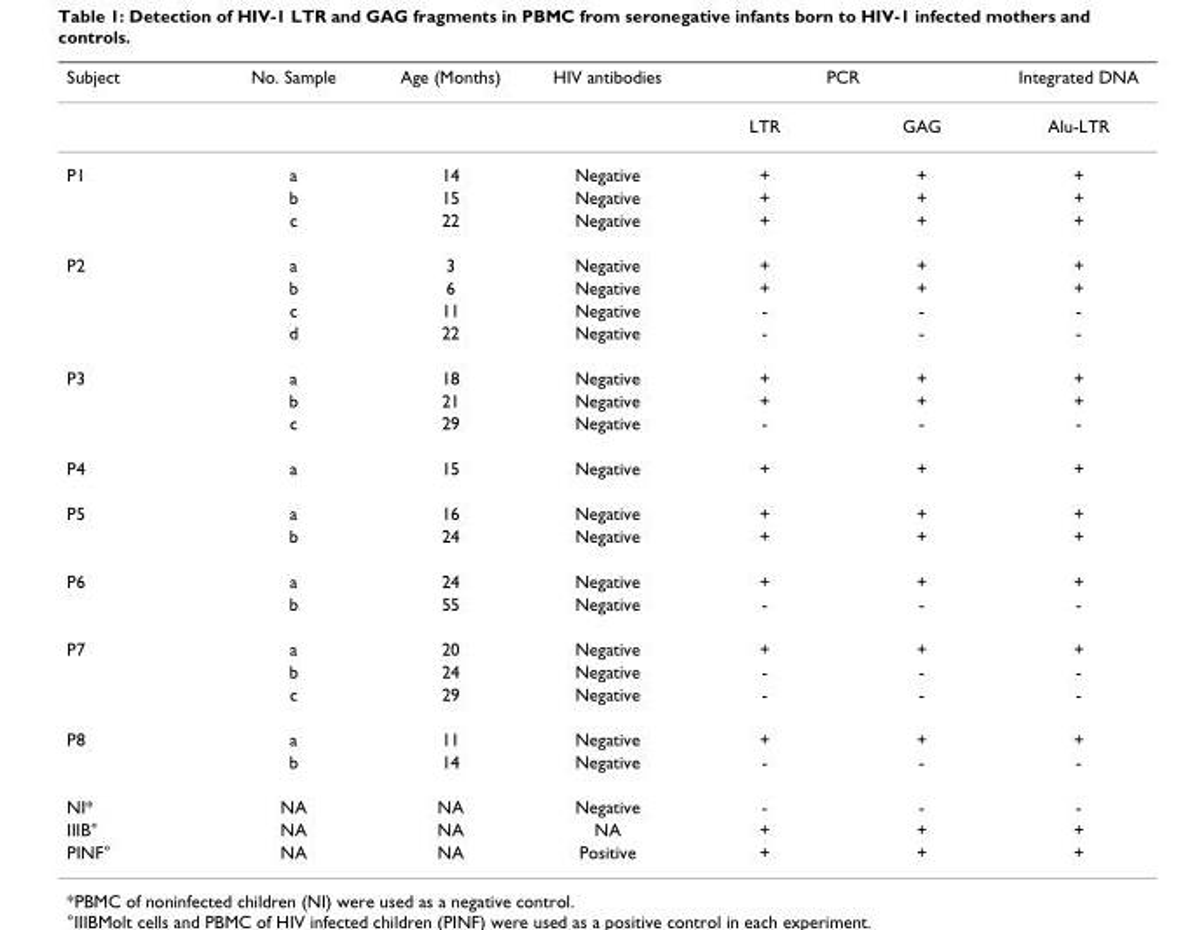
<table><thead><tr><td rowspan="2">Subject</td><td rowspan="2">No. Sample</td><td rowspan="2">Age (Months)</td><td rowspan="2">HIV antibodies</td><td colspan="2">PCR</td><td rowspan="2">Integrated DNA Alu-LTR</td></tr><tr><td>LTR</td><td>GAG</td></tr></thead><tbody><tr><td rowspan="3">P1</td><td>a</td><td>14</td><td>Negative</td><td>+</td><td>+</td><td>+</td></tr><tr><td>b</td><td>15</td><td>Negative</td><td>+</td><td>+</td><td>+</td></tr><tr><td>c</td><td>22</td><td>Negative</td><td>+</td><td>+</td><td>+</td></tr><tr><td rowspan="4">P2</td><td>a</td><td>3</td><td>Negative</td><td>+</td><td>+</td><td>+</td></tr><tr><td>b</td><td>6</td><td>Negative</td><td>+</td><td>+</td><td>+</td></tr><tr><td>c</td><td>11</td><td>Negative</td><td>-</td><td>-</td><td>-</td></tr><tr><td>d</td><td>22</td><td>Negative</td><td>-</td><td>-</td><td>-</td></tr><tr><td rowspan="3">P3</td><td>a</td><td>18</td><td>Negative</td><td>+</td><td>+</td><td>+</td></tr><tr><td>b</td><td>21</td><td>Negative</td><td>+</td><td>+</td><td>+</td></tr><tr><td>c</td><td>29</td><td>Negative</td><td>-</td><td>-</td><td>-</td></tr><tr><td>P4</td><td>a</td><td>15</td><td>Negative</td><td>+</td><td>+</td><td>+</td></tr><tr><td rowspan="2">P5</td><td>a</td><td>16</td><td>Negative</td><td>+</td><td>+</td><td>+</td></tr><tr><td>b</td><td>24</td><td>Negative</td><td>+</td><td>+</td><td>+</td></tr><tr><td rowspan="2">P6</td><td>a</td><td>24</td><td>Negative</td><td>+</td><td>+</td><td>+</td></tr><tr><td>b</td><td>55</td><td>Negative</td><td>-</td><td>-</td><td>-</td></tr><tr><td rowspan="3">P7</td><td>a</td><td>20</td><td>Negative</td><td>+</td><td>+</td><td>+</td></tr><tr><td>b</td><td>24</td><td>Negative</td><td>-</td><td>-</td><td>-</td></tr><tr><td>c</td><td>29</td><td>Negative</td><td>-</td><td>-</td><td>-</td></tr><tr><td rowspan="2">P8</td><td>a</td><td>11</td><td>Negative</td><td>+</td><td>+</td><td>+</td></tr><tr><td>b</td><td>14</td><td>Negative</td><td>-</td><td>-</td><td>-</td></tr><tr><td>NI*</td><td>NA</td><td>NA</td><td>Negative</td><td>-</td><td>-</td><td>-</td></tr><tr><td>IIIB°</td><td>NA</td><td>NA</td><td>NA</td><td>+</td><td>+</td><td>+</td></tr><tr><td>PINF°</td><td>NA</td><td>NA</td><td>Positive</td><td>+</td><td>+</td><td>+</td></tr></tbody></table>